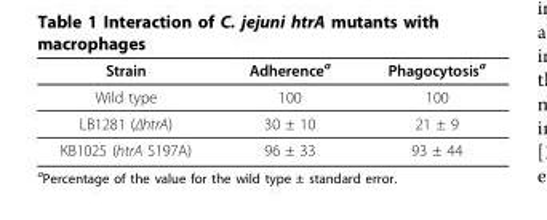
<table><thead><tr><td>Strain</td><td>Adherence<sup>a</sup></td><td>Phagocytosis<sup>a</sup></td></tr></thead><tbody><tr><td>Wild type</td><td>100</td><td>100</td></tr><tr><td>LB1281 (ΔhtrA)</td><td>30 ± 10</td><td>21 ± 9</td></tr><tr><td>KB1025 (htrA S197A)</td><td>96 ± 33</td><td>93 ± 44</td></tr></tbody></table>